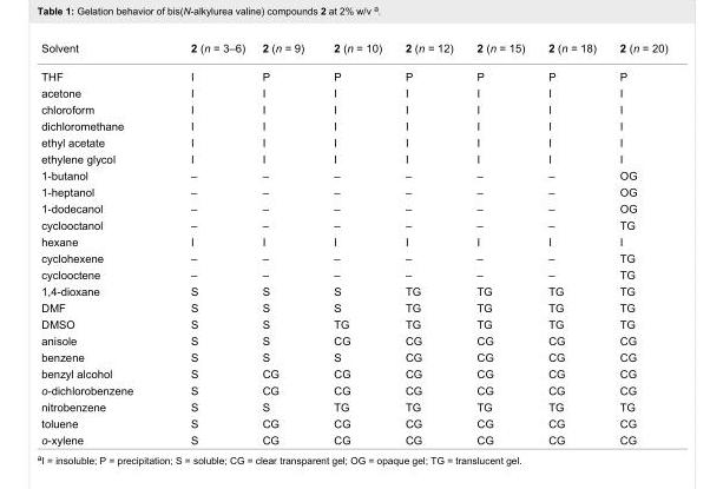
<table><tbody><tr><td>Solvent</td><td>2 (n = 3–6)</td><td>2 (n = 9)</td><td>2 (n = 10)</td><td>2 (n = 12)</td><td>2 (n = 15)</td><td>2 (n = 18)</td><td>2 (n = 20)</td></tr><tr><td>THF</td><td>I</td><td>P</td><td>P</td><td>P</td><td>P</td><td>P</td><td>P</td></tr><tr><td>acetone</td><td>I</td><td>I</td><td>I</td><td>I</td><td>I</td><td>I</td><td>I</td></tr><tr><td>chloroform</td><td>I</td><td>I</td><td>I</td><td>I</td><td>I</td><td>I</td><td>I</td></tr><tr><td>dichloromethane</td><td>I</td><td>I</td><td>I</td><td>I</td><td>I</td><td>I</td><td>I</td></tr><tr><td>ethyl acetate</td><td>I</td><td>I</td><td>I</td><td>I</td><td>I</td><td>I</td><td>I</td></tr><tr><td>ethylene glycol</td><td>I</td><td>I</td><td>I</td><td>I</td><td>I</td><td>I</td><td>I</td></tr><tr><td>1-butanol</td><td>–</td><td>–</td><td>–</td><td>–</td><td>–</td><td>–</td><td>OG</td></tr><tr><td>1-heptanol</td><td>–</td><td>–</td><td>–</td><td>–</td><td>–</td><td>–</td><td>OG</td></tr><tr><td>1-dodecanol</td><td>–</td><td>–</td><td>–</td><td>–</td><td>–</td><td>–</td><td>OG</td></tr><tr><td>cyclooctanol</td><td>–</td><td>–</td><td>–</td><td>–</td><td>–</td><td>–</td><td>TG</td></tr><tr><td>hexane</td><td>I</td><td>I</td><td>I</td><td>I</td><td>I</td><td>I</td><td>I</td></tr><tr><td>cyclohexene</td><td>–</td><td>–</td><td>–</td><td>–</td><td>–</td><td>–</td><td>TG</td></tr><tr><td>cyclooctene</td><td>–</td><td>–</td><td>–</td><td>–</td><td>–</td><td>–</td><td>TG</td></tr><tr><td>1,4-dioxane</td><td>S</td><td>S</td><td>S</td><td>TG</td><td>TG</td><td>TG</td><td>TG</td></tr><tr><td>DMF</td><td>S</td><td>S</td><td>S</td><td>TG</td><td>TG</td><td>TG</td><td>TG</td></tr><tr><td>DMSO</td><td>S</td><td>S</td><td>TG</td><td>TG</td><td>TG</td><td>TG</td><td>TG</td></tr><tr><td>anisole</td><td>S</td><td>S</td><td>CG</td><td>CG</td><td>CG</td><td>CG</td><td>CG</td></tr><tr><td>benzene</td><td>S</td><td>S</td><td>S</td><td>CG</td><td>CG</td><td>CG</td><td>CG</td></tr><tr><td>benzyl alcohol</td><td>S</td><td>CG</td><td>CG</td><td>CG</td><td>CG</td><td>CG</td><td>CG</td></tr><tr><td>o-dichlorobenzene</td><td>S</td><td>CG</td><td>CG</td><td>CG</td><td>CG</td><td>CG</td><td>CG</td></tr><tr><td>nitrobenzene</td><td>S</td><td>S</td><td>TG</td><td>TG</td><td>TG</td><td>TG</td><td>TG</td></tr><tr><td>toluene</td><td>S</td><td>CG</td><td>CG</td><td>CG</td><td>CG</td><td>CG</td><td>CG</td></tr><tr><td>o-xylene</td><td>S</td><td>CG</td><td>CG</td><td>CG</td><td>CG</td><td>CG</td><td>CG</td></tr></tbody></table>